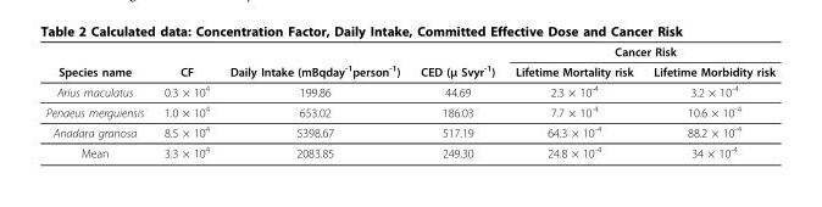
<table><thead><tr><td rowspan="2">Species name</td><td rowspan="2">CF</td><td rowspan="2">Daily Intake (mBqday<sup>-1</sup>person<sup>-1</sup>)</td><td rowspan="2">CED (μ Svyr<sup>-1</sup>)</td><td colspan="2">Cancer Risk</td></tr><tr><td>Lifetime Mortality risk</td><td>Lifetime Morbidity risk</td></tr></thead><tbody><tr><td>Arius maculatus</td><td>0.3 × 10<sup>4</sup></td><td>199.86</td><td>44.69</td><td>2.3 × 10<sup>-4</sup></td><td>3.2 × 10<sup>-4</sup></td></tr><tr><td>Penaeus merguiensis</td><td>1.0 × 10<sup>4</sup></td><td>653.02</td><td>186.03</td><td>7.7 × 10<sup>-4</sup></td><td>10.6 × 10<sup>-4</sup></td></tr><tr><td>Anadara granosa</td><td>8.5 × 10<sup>4</sup></td><td>5398.67</td><td>517.19</td><td>64.3 × 10<sup>-4</sup></td><td>88.2 × 10<sup>-4</sup></td></tr><tr><td>Mean</td><td>3.3 × 10<sup>4</sup></td><td>2083.85</td><td>249.30</td><td>24.8 × 10<sup>-4</sup></td><td>34 × 10<sup>-4</sup></td></tr></tbody></table>